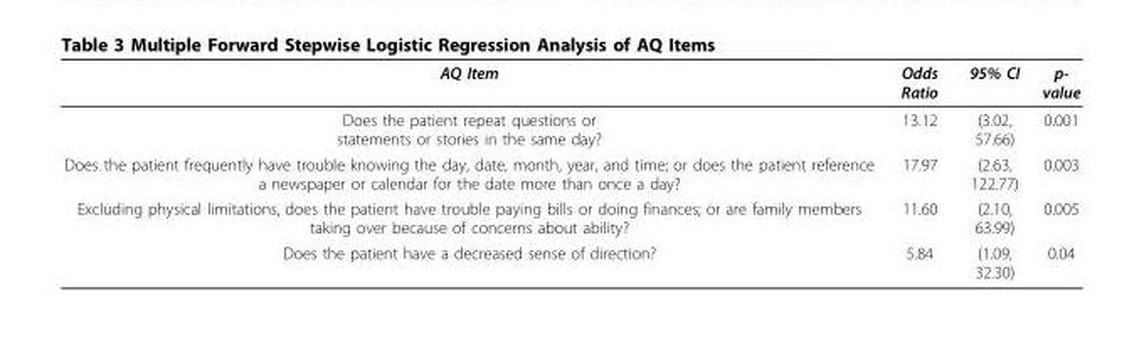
<table><thead><tr><td>AQ Item</td><td>Odds Ratio</td><td>95% CI</td><td>p- value</td></tr></thead><tbody><tr><td>Does the patient repeat questions or statements or stories in the same day?</td><td>13.12</td><td>(3.02, 57.66)</td><td>0.001</td></tr><tr><td>Does the patient frequently have trouble knowing the day, date, month, year, and time; or does the patient reference a newspaper or calendar for the date more than once a day?</td><td>17.97</td><td>(2.63, 122.77)</td><td>0.003</td></tr><tr><td>Excluding physical limitations, does the patient have trouble paying bills or doing finances; or are family members taking over because of concerns about ability?</td><td>11.60</td><td>(2.10, 63.99)</td><td>0.005</td></tr><tr><td>Does the patient have a decreased sense of direction?</td><td>5.84</td><td>(1.09, 32.30)</td><td>0.04</td></tr></tbody></table>